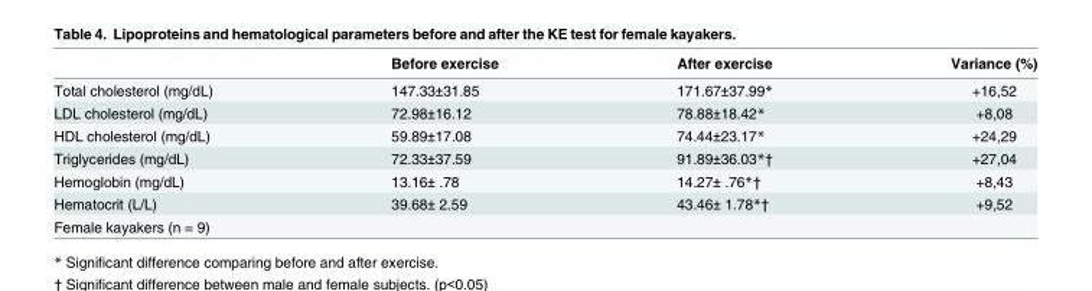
<table><thead><tr><td></td><td>Before exercise</td><td>After exercise</td><td>Variance (%)</td></tr></thead><tbody><tr><td>Total cholesterol (mg/dL)</td><td>147.33±31.85</td><td>171.67±37.99*</td><td>+16,52</td></tr><tr><td>LDL cholesterol (mg/dL)</td><td>72.98±16.12</td><td>78.88±18.42*</td><td>+8,08</td></tr><tr><td>HDL cholesterol (mg/dL)</td><td>59.89±17.08</td><td>74.44±23.17*</td><td>+24,29</td></tr><tr><td>Triglycerides (mg/dL)</td><td>72.33±37.59</td><td>91.89±36.03*†</td><td>+27,04</td></tr><tr><td>Hemoglobin (mg/dL)</td><td>13.16± .78</td><td>14.27± .76*†</td><td>+8,43</td></tr><tr><td>Hematocrit (L/L)</td><td>39.68± 2.59</td><td>43.46± 1.78*†</td><td>+9,52</td></tr><tr><td colspan="4">Female kayakers (n = 9)</td></tr></tbody></table>